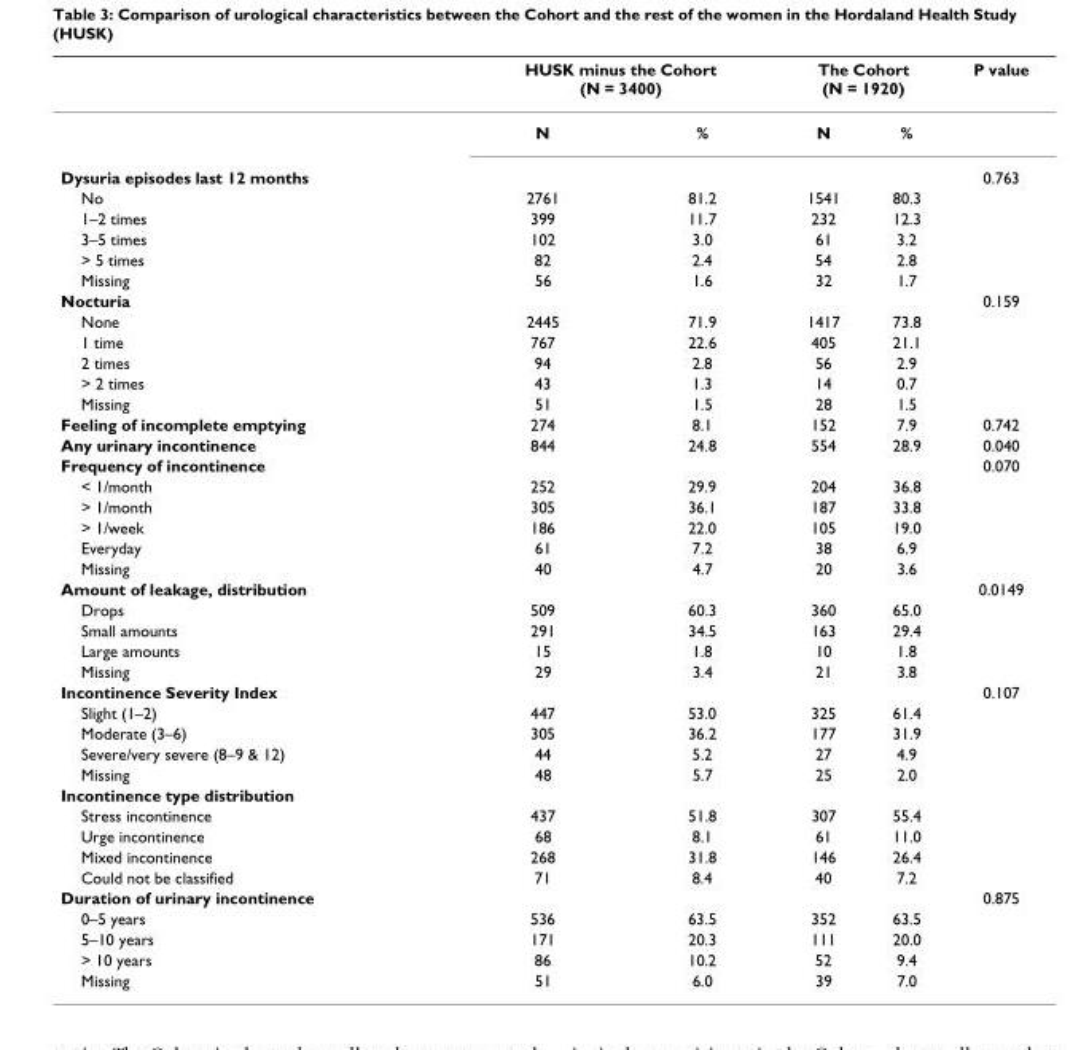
<table><thead><tr><td rowspan="2"></td><td colspan="2">HUSK minus the Cohort (N = 3400)</td><td colspan="2">The Cohort (N = 1920)</td><td rowspan="2">P value</td></tr><tr><td>N</td><td>%</td><td>N</td><td>%</td></tr></thead><tbody><tr><td>Dysuria episodes last 12 months</td><td></td><td></td><td></td><td></td><td>0.763</td></tr><tr><td>No</td><td>2761</td><td>81.2</td><td>1541</td><td>80.3</td><td></td></tr><tr><td>1–2 times</td><td>399</td><td>11.7</td><td>232</td><td>12.3</td><td></td></tr><tr><td>3–5 times</td><td>102</td><td>3.0</td><td>61</td><td>3.2</td><td></td></tr><tr><td>&gt; 5 times</td><td>82</td><td>2.4</td><td>54</td><td>2.8</td><td></td></tr><tr><td>Missing</td><td>56</td><td>1.6</td><td>32</td><td>1.7</td><td></td></tr><tr><td>Nocturia</td><td></td><td></td><td></td><td></td><td>0.159</td></tr><tr><td>None</td><td>2445</td><td>71.9</td><td>1417</td><td>73.8</td><td></td></tr><tr><td>1 time</td><td>767</td><td>22.6</td><td>405</td><td>21.1</td><td></td></tr><tr><td>2 times</td><td>94</td><td>2.8</td><td>56</td><td>2.9</td><td></td></tr><tr><td>&gt; 2 times</td><td>43</td><td>1.3</td><td>14</td><td>0.7</td><td></td></tr><tr><td>Missing</td><td>51</td><td>1.5</td><td>28</td><td>1.5</td><td></td></tr><tr><td>Feeling of incomplete emptying</td><td>274</td><td>8.1</td><td>152</td><td>7.9</td><td>0.742</td></tr><tr><td>Any urinary incontinence</td><td>844</td><td>24.8</td><td>554</td><td>28.9</td><td>0.040</td></tr><tr><td>Frequency of incontinence</td><td></td><td></td><td></td><td></td><td>0.070</td></tr><tr><td>&lt; 1/month</td><td>252</td><td>29.9</td><td>204</td><td>36.8</td><td></td></tr><tr><td>&gt; 1/month</td><td>305</td><td>36.1</td><td>187</td><td>33.8</td><td></td></tr><tr><td>&gt; 1/week</td><td>186</td><td>22.0</td><td>105</td><td>19.0</td><td></td></tr><tr><td>Everyday</td><td>61</td><td>7.2</td><td>38</td><td>6.9</td><td></td></tr><tr><td>Missing</td><td>40</td><td>4.7</td><td>20</td><td>3.6</td><td></td></tr><tr><td>Amount of leakage, distribution</td><td></td><td></td><td></td><td></td><td>0.0149</td></tr><tr><td>Drops</td><td>509</td><td>60.3</td><td>360</td><td>65.0</td><td></td></tr><tr><td>Small amounts</td><td>291</td><td>34.5</td><td>163</td><td>29.4</td><td></td></tr><tr><td>Large amounts</td><td>15</td><td>1.8</td><td>10</td><td>1.8</td><td></td></tr><tr><td>Missing</td><td>29</td><td>3.4</td><td>21</td><td>3.8</td><td></td></tr><tr><td>Incontinence Severity Index</td><td></td><td></td><td></td><td></td><td>0.107</td></tr><tr><td>Slight (1–2)</td><td>447</td><td>53.0</td><td>325</td><td>61.4</td><td></td></tr><tr><td>Moderate (3–6)</td><td>305</td><td>36.2</td><td>177</td><td>31.9</td><td></td></tr><tr><td>Severe/very severe (8–9 &amp; 12)</td><td>44</td><td>5.2</td><td>27</td><td>4.9</td><td></td></tr><tr><td>Missing</td><td>48</td><td>5.7</td><td>25</td><td>2.0</td><td></td></tr><tr><td colspan="6">Incontinence type distribution</td></tr><tr><td>Stress incontinence</td><td>437</td><td>51.8</td><td>307</td><td>55.4</td><td></td></tr><tr><td>Urge incontinence</td><td>68</td><td>8.1</td><td>61</td><td>11.0</td><td></td></tr><tr><td>Mixed incontinence</td><td>268</td><td>31.8</td><td>146</td><td>26.4</td><td></td></tr><tr><td>Could not be classified</td><td>71</td><td>8.4</td><td>40</td><td>7.2</td><td></td></tr><tr><td>Duration of urinary incontinence</td><td></td><td></td><td></td><td></td><td>0.875</td></tr><tr><td>0–5 years</td><td>536</td><td>63.5</td><td>352</td><td>63.5</td><td></td></tr><tr><td>5–10 years</td><td>171</td><td>20.3</td><td>111</td><td>20.0</td><td></td></tr><tr><td>&gt; 10 years</td><td>86</td><td>10.2</td><td>52</td><td>9.4</td><td></td></tr><tr><td>Missing</td><td>51</td><td>6.0</td><td>39</td><td>7.0</td><td></td></tr></tbody></table>